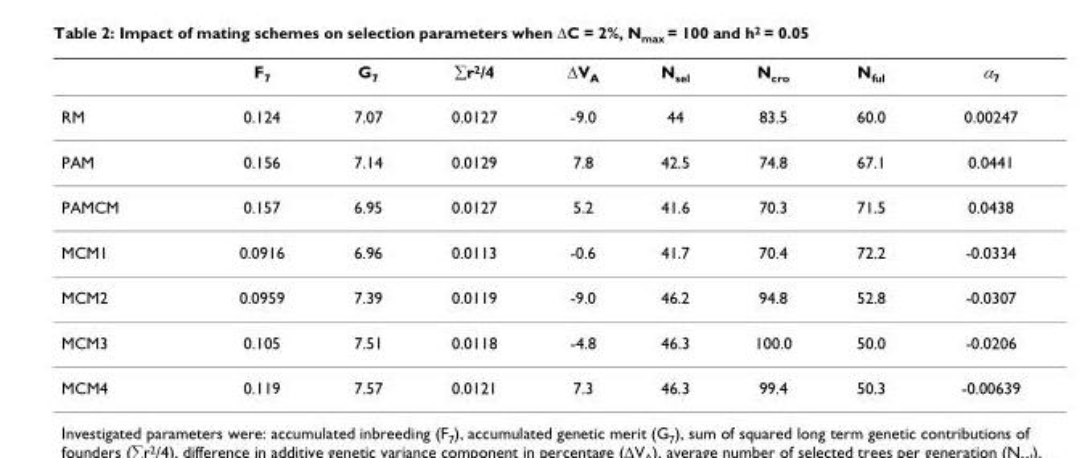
<table><thead><tr><td></td><td>F<sub>7</sub></td><td>G<sub>7</sub></td><td>∑r<sup>2</sup>/4</td><td>ΔV<sub>A</sub></td><td>N<sub>sel</sub></td><td>N<sub>cro</sub></td><td>N<sub>ful</sub></td><td>α<sub>7</sub></td></tr></thead><tbody><tr><td>RM</td><td>0.124</td><td>7.07</td><td>0.0127</td><td>-9.0</td><td>44</td><td>83.5</td><td>60.0</td><td>0.00247</td></tr><tr><td>PAM</td><td>0.156</td><td>7.14</td><td>0.0129</td><td>7.8</td><td>42.5</td><td>74.8</td><td>67.1</td><td>0.0441</td></tr><tr><td>PAMCM</td><td>0.157</td><td>6.95</td><td>0.0127</td><td>5.2</td><td>41.6</td><td>70.3</td><td>71.5</td><td>0.0438</td></tr><tr><td>MCM1</td><td>0.0916</td><td>6.96</td><td>0.0113</td><td>-0.6</td><td>41.7</td><td>70.4</td><td>72.2</td><td>-0.0334</td></tr><tr><td>MCM2</td><td>0.0959</td><td>7.39</td><td>0.0119</td><td>-9.0</td><td>46.2</td><td>94.8</td><td>52.8</td><td>-0.0307</td></tr><tr><td>MCM3</td><td>0.105</td><td>7.51</td><td>0.0118</td><td>-4.8</td><td>46.3</td><td>100.0</td><td>50.0</td><td>-0.0206</td></tr><tr><td>MCM4</td><td>0.119</td><td>7.57</td><td>0.0121</td><td>7.3</td><td>46.3</td><td>99.4</td><td>50.3</td><td>-0.00639</td></tr></tbody></table>